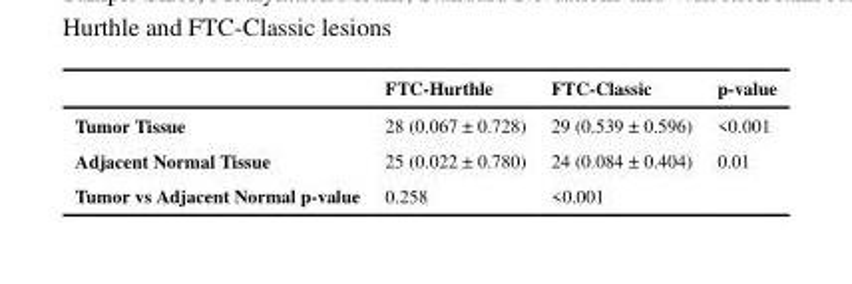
<table><thead><tr><td></td><td>FTC-Hurthle</td><td>FTC-Classic</td><td>p-value</td></tr></thead><tbody><tr><td>Tumor Tissue</td><td>28 (0.067 ± 0.728)</td><td>29 (0.539 ± 0.596)</td><td>&lt;0.001</td></tr><tr><td>Adjacent Normal Tissue</td><td>25 (0.022 ± 0.780)</td><td>24 (0.084 ± 0.404)</td><td>0.01</td></tr><tr><td>Tumor vs Adjacent Normal p-value</td><td>0.258</td><td>&lt;0.001</td><td></td></tr></tbody></table>